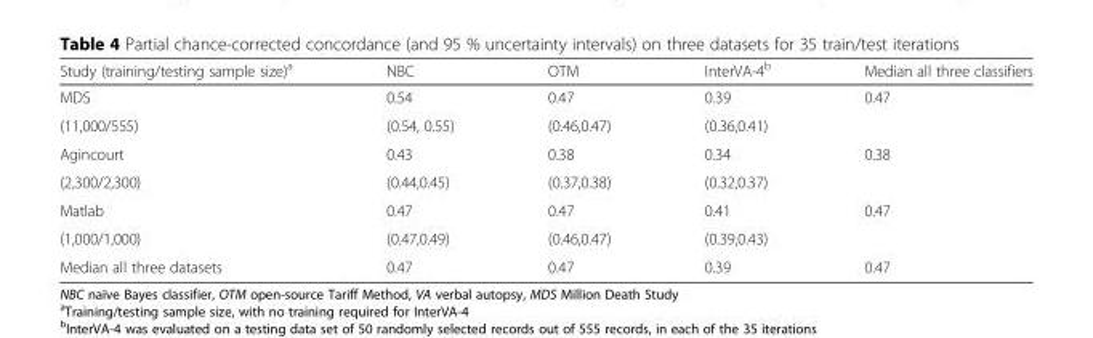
<table><thead><tr><td>Study (training/testing sample size)<sup>a</sup></td><td>NBC</td><td>OTM</td><td>InterVA-4<sup>b</sup></td><td>Median all three classifiers</td></tr></thead><tbody><tr><td>MDS</td><td>0.54</td><td>0.47</td><td>0.39</td><td rowspan="2">0.47</td></tr><tr><td>(11,000/555)</td><td>(0.54, 0.55)</td><td>(0.46,0.47)</td><td>(0.36,0.41)</td></tr><tr><td>Agincourt</td><td>0.43</td><td>0.38</td><td>0.34</td><td rowspan="2">0.38</td></tr><tr><td>(2,300/2,300)</td><td>(0.44,0.45)</td><td>(0.37,0.38)</td><td>(0.32,0.37)</td></tr><tr><td>Matlab</td><td>0.47</td><td>0.47</td><td>0.41</td><td rowspan="2">0.47</td></tr><tr><td>(1,000/1,000)</td><td>(0.47,0.49)</td><td>(0.46,0.47)</td><td>(0.39,0.43)</td></tr><tr><td>Median all three datasets</td><td>0.47</td><td>0.47</td><td>0.39</td><td>0.47</td></tr></tbody></table>